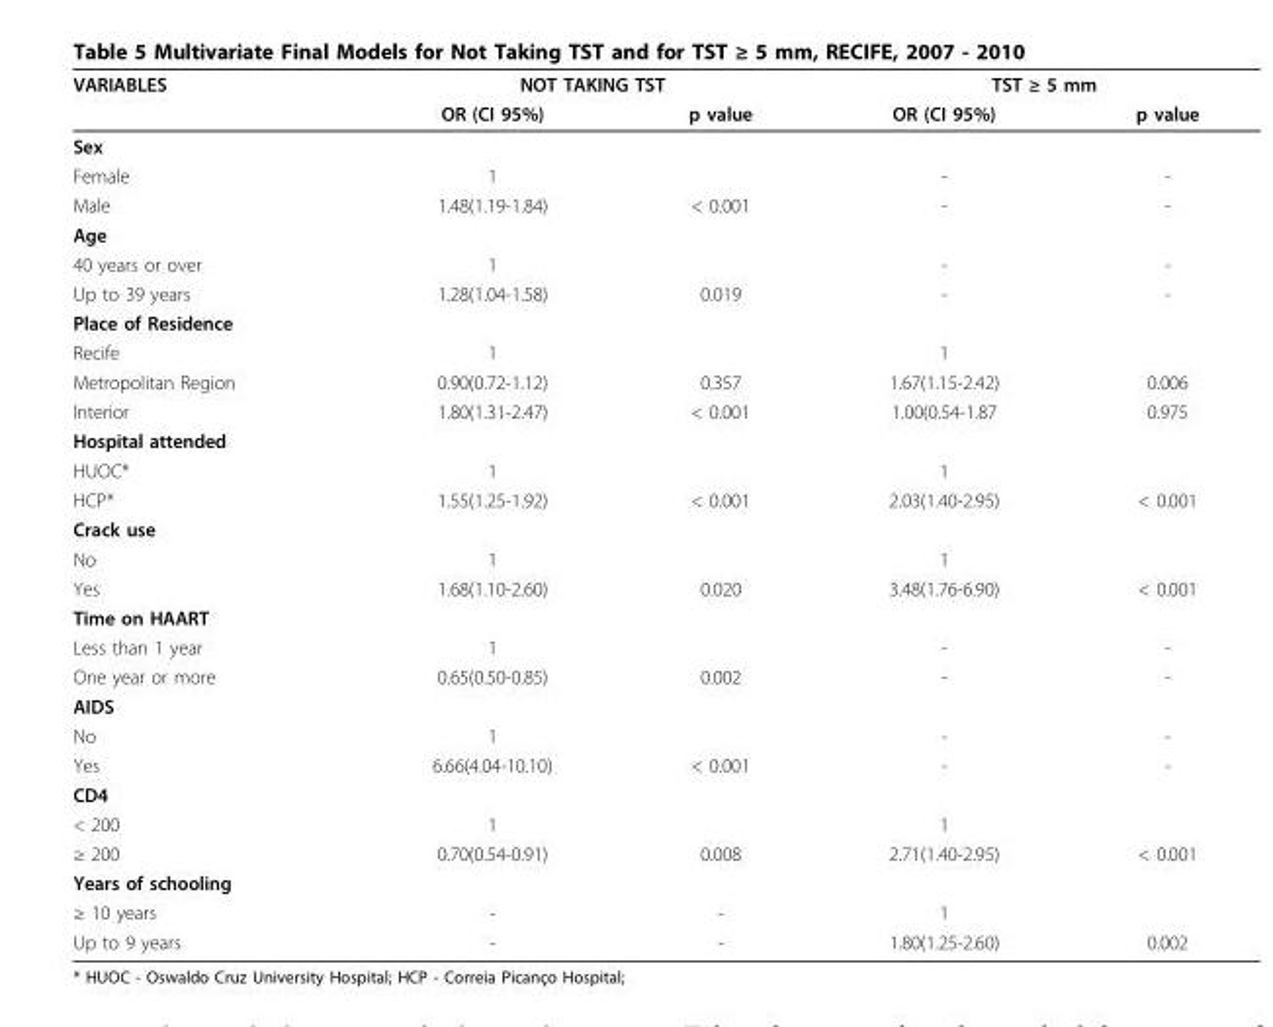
<table><thead><tr><td rowspan="2">VARIABLES</td><td colspan="2">NOT TAKING TST</td><td colspan="2">TST ≥ 5 mm</td></tr><tr><td>OR (CI 95%)</td><td>p value</td><td>OR (CI 95%)</td><td>p value</td></tr></thead><tbody><tr><td colspan="5">Sex</td></tr><tr><td>Female</td><td>1</td><td></td><td>-</td><td>-</td></tr><tr><td>Male</td><td>1.48(1.19-1.84)</td><td>&lt; 0.001</td><td>-</td><td>-</td></tr><tr><td colspan="5">Age</td></tr><tr><td>40 years or over</td><td>1</td><td></td><td>-</td><td>-</td></tr><tr><td>Up to 39 years</td><td>1.28(1.04-1.58)</td><td>0.019</td><td>-</td><td>-</td></tr><tr><td colspan="5">Place of Residence</td></tr><tr><td>Recife</td><td>1</td><td></td><td>1</td><td></td></tr><tr><td>Metropolitan Region</td><td>0.90(0.72-1.12)</td><td>0.357</td><td>1.67(1.15-2.42)</td><td>0.006</td></tr><tr><td>Interior</td><td>1.80(1.31-2.47)</td><td>&lt; 0.001</td><td>1.00(0.54-1.87</td><td>0.975</td></tr><tr><td colspan="5">Hospital attended</td></tr><tr><td>HUOC*</td><td>1</td><td></td><td>1</td><td></td></tr><tr><td>HCP*</td><td>1.55(1.25-1.92)</td><td>&lt; 0.001</td><td>2.03(1.40-2.95)</td><td>&lt; 0.001</td></tr><tr><td colspan="5">Crack use</td></tr><tr><td>No</td><td>1</td><td></td><td>1</td><td></td></tr><tr><td>Yes</td><td>1.68(1.10-2.60)</td><td>0.020</td><td>3.48(1.76-6.90)</td><td>&lt; 0.001</td></tr><tr><td colspan="5">Time on HAART</td></tr><tr><td>Less than 1 year</td><td>1</td><td></td><td>-</td><td>-</td></tr><tr><td>One year or more</td><td>0.65(0.50-0.85)</td><td>0.002</td><td>-</td><td>-</td></tr><tr><td colspan="5">AIDS</td></tr><tr><td>No</td><td>1</td><td></td><td>-</td><td>-</td></tr><tr><td>Yes</td><td>6.66(4.04-10.10)</td><td>&lt; 0.001</td><td>-</td><td>-</td></tr><tr><td colspan="5">CD4</td></tr><tr><td>&lt; 200</td><td>1</td><td></td><td>1</td><td></td></tr><tr><td>≥ 200</td><td>0.70(0.54-0.91)</td><td>0.008</td><td>2.71(1.40-2.95)</td><td>&lt; 0.001</td></tr><tr><td colspan="5">Years of schooling</td></tr><tr><td>≥ 10 years</td><td>-</td><td>-</td><td>1</td><td></td></tr><tr><td>Up to 9 years</td><td>-</td><td>-</td><td>1.80(1.25-2.60)</td><td>0.002</td></tr></tbody></table>